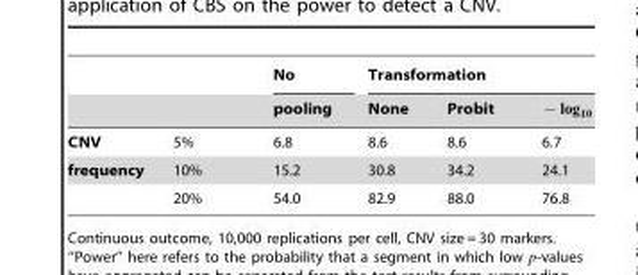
<table><thead><tr><td rowspan="2"></td><td rowspan="2"></td><td rowspan="2">No pooling</td><td colspan="3">Transformation</td></tr><tr><td>None</td><td>Probit</td><td>{</td></tr></thead><tbody><tr><td>CNV</td><td>5%</td><td>6.8</td><td>8.6</td><td>8.6</td><td>6.7</td></tr><tr><td rowspan="2">frequency</td><td>10%</td><td>15.2</td><td>30.8</td><td>34.2</td><td>24.1</td></tr><tr><td>20%</td><td>54.0</td><td>82.9</td><td>88.0</td><td>76.8</td></tr></tbody></table>